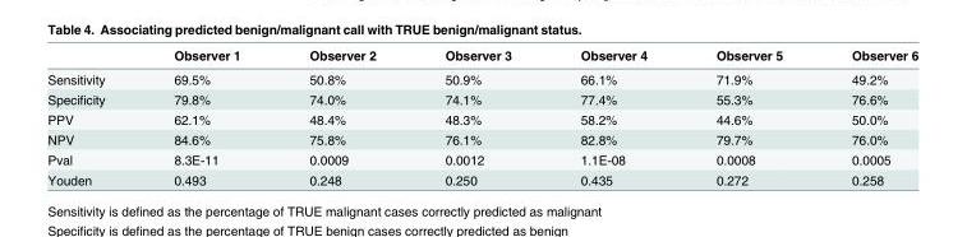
<table><thead><tr><td></td><td>Observer 1</td><td>Observer 2</td><td>Observer 3</td><td>Observer 4</td><td>Observer 5</td><td>Observer 6</td></tr></thead><tbody><tr><td>Sensitivity</td><td>69.5%</td><td>50.8%</td><td>50.9%</td><td>66.1%</td><td>71.9%</td><td>49.2%</td></tr><tr><td>Specificity</td><td>79.8%</td><td>74.0%</td><td>74.1%</td><td>77.4%</td><td>55.3%</td><td>76.6%</td></tr><tr><td>PPV</td><td>62.1%</td><td>48.4%</td><td>48.3%</td><td>58.2%</td><td>44.6%</td><td>50.0%</td></tr><tr><td>NPV</td><td>84.6%</td><td>75.8%</td><td>76.1%</td><td>82.8%</td><td>79.7%</td><td>76.0%</td></tr><tr><td>Pval</td><td>8.3E-11</td><td>0.0009</td><td>0.0012</td><td>1.1E-08</td><td>0.0008</td><td>0.0005</td></tr><tr><td>Youden</td><td>0.493</td><td>0.248</td><td>0.250</td><td>0.435</td><td>0.272</td><td>0.258</td></tr></tbody></table>